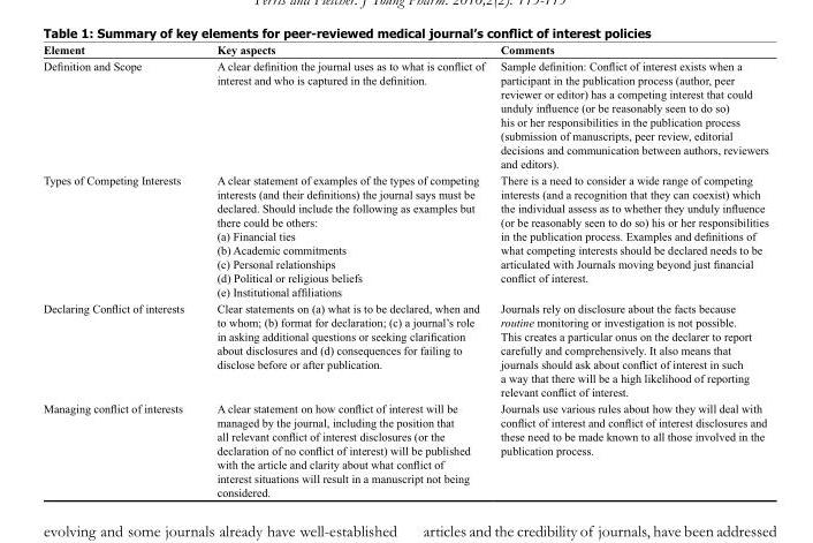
<table><thead><tr><td>Element</td><td>Key aspects</td><td>Comments</td></tr></thead><tbody><tr><td>Definition and Scope</td><td>A clear definition the journal uses as to what is conflict of interest and who is captured in the definition.</td><td>Sample definition: Conflict of interest exists when a participant in the publication process (author, peer reviewer or editor) has a competing interest that could unduly influence (or be reasonably seen to do so) his or her responsibilities in the publication process (submission of manuscripts, peer review, editorial decisions and communication between authors, reviewers and editors).</td></tr><tr><td>Types of Competing Interests</td><td>A clear statement of examples of the types of competing interests (and their definitions) the journal says must be declared. Should include the following as examples but there could be others: (a) Financial ties (b) Academic commitments (c) Personal relationships (d) Political or religious beliefs (e) Institutional affiliations</td><td>There is a need to consider a wide range of competing interests (and a recognition that they can coexist) which the individual assess as to whether they unduly influence (or be reasonably seen to do so) his or her responsibilities in the publication process. Examples and definitions of what competing interests should be declared needs to be articulated with Journals moving beyond just financial conflict of interest.</td></tr><tr><td>Declaring Conflict of interests</td><td>Clear statements on (a) what is to be declared, when and to whom; (b) format for declaration; (c) a journal’s role in asking additional questions or seeking clarification about disclosures and (d) consequences for failing to disclose before or after publication.</td><td>Journals rely on disclosure about the facts because routine monitoring or investigation is not possible. This creates a particular onus on the declarer to report carefully and comprehensively. It also means that journals should ask about conflict of interest in such a way that there will be a high likelihood of reporting relevant conflict of interest.</td></tr><tr><td>Managing conflict of interests</td><td>A clear statement on how conflict of interest will be managed by the journal, including the position that all relevant conflict of interest disclosures (or the declaration of no conflict of interest) will be published with the article and clarity about what conflict of interest situations will result in a manuscript not being considered.</td><td>Journals use various rules about how they will deal with conflict of interest and conflict of interest disclosures and these need to be made known to all those involved in the publication process.</td></tr></tbody></table>